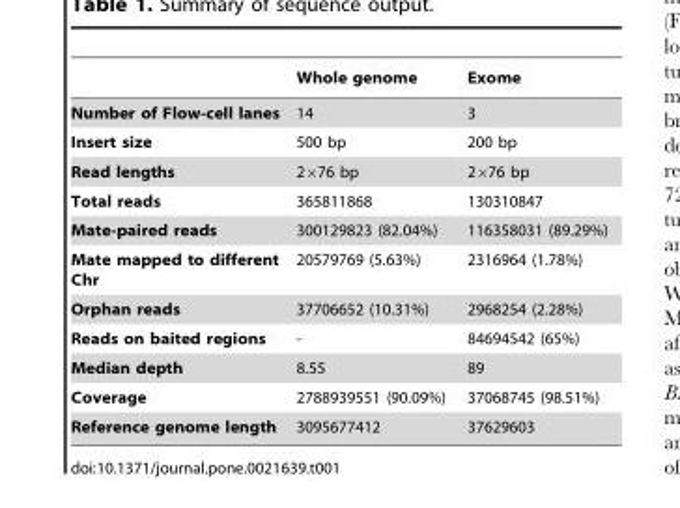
<table><thead><tr><td></td><td>Whole genome</td><td>Exome</td></tr></thead><tbody><tr><td>Number of Flow-cell lanes</td><td>14</td><td>3</td></tr><tr><td>Insert size</td><td>500 bp</td><td>200 bp</td></tr><tr><td>Read lengths</td><td>2×76 bp</td><td>2×76 bp</td></tr><tr><td>Total reads</td><td>365811868</td><td>130310847</td></tr><tr><td>Mate-paired reads</td><td>300129823 (82.04%)</td><td>116358031 (89.29%)</td></tr><tr><td>Mate mapped to different Chr</td><td>20579769 (5.63%)</td><td>2316964 (1.78%)</td></tr><tr><td>Orphan reads</td><td>37706652 (10.31%)</td><td>2968254 (2.28%)</td></tr><tr><td>Reads on baited regions</td><td>-</td><td>84694542 (65%)</td></tr><tr><td>Median depth</td><td>8.55</td><td>89</td></tr><tr><td>Coverage</td><td>2788939551 (90.09%)</td><td>37068745 (98.51%)</td></tr><tr><td>Reference genome length</td><td>3095677412</td><td>37629603</td></tr></tbody></table>